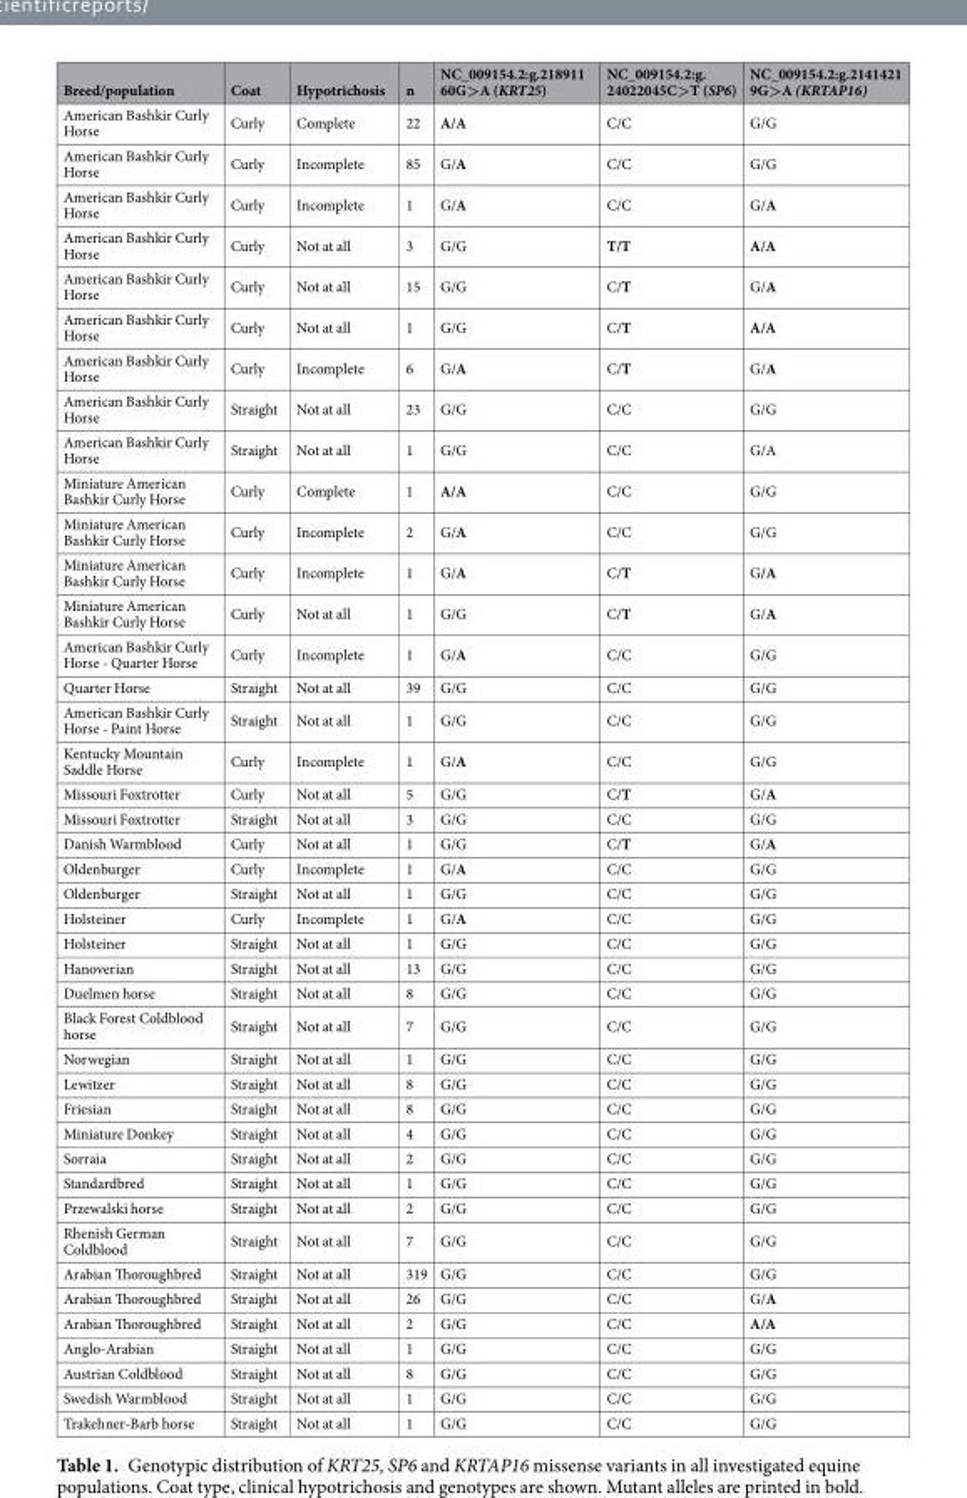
<table><thead><tr><td>Breed/population</td><td>Coat</td><td>Hypotrichosis</td><td>n</td><td>NC_009154.2:g.218911 60G&gt;A (KRT25)</td><td>NC_009154.2:g. 24022045C&gt;T (SP6)</td><td>NC_009154.2:g.2141421 9G&gt;A (KRTAP16)</td></tr></thead><tbody><tr><td>American Bashkir Curly Horse</td><td>Curly</td><td>Complete</td><td>22</td><td>A/A</td><td>C/C</td><td>G/G</td></tr><tr><td>American Bashkir Curly Horse</td><td>Curly</td><td>Incomplete</td><td>85</td><td>G/A</td><td>C/C</td><td>G/G</td></tr><tr><td>American Bashkir Curly Horse</td><td>Curly</td><td>Incomplete</td><td>1</td><td>G/A</td><td>C/C</td><td>G/A</td></tr><tr><td>American Bashkir Curly Horse</td><td>Curly</td><td>Not at all</td><td>3</td><td>G/G</td><td>T/T</td><td>A/A</td></tr><tr><td>American Bashkir Curly Horse</td><td>Curly</td><td>Not at all</td><td>15</td><td>G/G</td><td>C/T</td><td>G/A</td></tr><tr><td>American Bashkir Curly Horse</td><td>Curly</td><td>Not at all</td><td>1</td><td>G/G</td><td>C/T</td><td>A/A</td></tr><tr><td>American Bashkir Curly Horse</td><td>Curly</td><td>Incomplete</td><td>6</td><td>G/A</td><td>C/T</td><td>G/A</td></tr><tr><td>American Bashkir Curly Horse</td><td>Straight</td><td>Not at all</td><td>23</td><td>G/G</td><td>C/C</td><td>G/G</td></tr><tr><td>American Bashkir Curly Horse</td><td>Straight</td><td>Not at all</td><td>1</td><td>G/G</td><td>C/C</td><td>G/A</td></tr><tr><td>Miniature American Bashkir Curly Horse</td><td>Curly</td><td>Complete</td><td>1</td><td>A/A</td><td>C/C</td><td>G/G</td></tr><tr><td>Miniature American Bashkir Curly Horse</td><td>Curly</td><td>Incomplete</td><td>2</td><td>G/A</td><td>C/C</td><td>G/G</td></tr><tr><td>Miniature American Bashkir Curly Horse</td><td>Curly</td><td>Incomplete</td><td>1</td><td>G/A</td><td>C/T</td><td>G/A</td></tr><tr><td>Miniature American Bashkir Curly Horse</td><td>Curly</td><td>Not at all</td><td>1</td><td>G/G</td><td>C/T</td><td>G/A</td></tr><tr><td>American Bashkir Curly Horse - Quarter Horse</td><td>Curly</td><td>Incomplete</td><td>1</td><td>G/A</td><td>C/C</td><td>G/G</td></tr><tr><td>Quarter Horse</td><td>Straight</td><td>Not at all</td><td>39</td><td>G/G</td><td>C/C</td><td>G/G</td></tr><tr><td>American Bashkir Curly Horse - Paint Horse</td><td>Straight</td><td>Not at all</td><td>1</td><td>G/G</td><td>C/C</td><td>G/G</td></tr><tr><td>Kentucky Mountain Saddle Horse</td><td>Curly</td><td>Incomplete</td><td>1</td><td>G/A</td><td>C/C</td><td>G/G</td></tr><tr><td>Missouri Foxtrotter</td><td>Curly</td><td>Not at all</td><td>5</td><td>G/G</td><td>C/T</td><td>G/A</td></tr><tr><td>Missouri Foxtrotter</td><td>Straight</td><td>Not at all</td><td>3</td><td>G/G</td><td>C/C</td><td>G/G</td></tr><tr><td>Danish Warmblood</td><td>Curly</td><td>Not at all</td><td>1</td><td>G/G</td><td>C/T</td><td>G/A</td></tr><tr><td>Oldenburger</td><td>Curly</td><td>Incomplete</td><td>1</td><td>G/A</td><td>C/C</td><td>G/G</td></tr><tr><td>Oldenburger</td><td>Straight</td><td>Not at all</td><td>1</td><td>G/G</td><td>C/C</td><td>G/G</td></tr><tr><td>Holsteiner</td><td>Curly</td><td>Incomplete</td><td>1</td><td>G/A</td><td>C/C</td><td>G/G</td></tr><tr><td>Holsteiner</td><td>Straight</td><td>Not at all</td><td>1</td><td>G/G</td><td>C/C</td><td>G/G</td></tr><tr><td>Hanoverian</td><td>Straight</td><td>Not at all</td><td>13</td><td>G/G</td><td>C/C</td><td>G/G</td></tr><tr><td>Duelmen horse</td><td>Straight</td><td>Not at all</td><td>8</td><td>G/G</td><td>C/C</td><td>G/G</td></tr><tr><td>Black Forest Coldblood horse</td><td>Straight</td><td>Not at all</td><td>7</td><td>G/G</td><td>C/C</td><td>G/G</td></tr><tr><td>Norwegian</td><td>Straight</td><td>Not at all</td><td>1</td><td>G/G</td><td>C/C</td><td>G/G</td></tr><tr><td>Lewitzer</td><td>Straight</td><td>Not at all</td><td>8</td><td>G/G</td><td>C/C</td><td>G/G</td></tr><tr><td>Friesian</td><td>Straight</td><td>Not at all</td><td>8</td><td>G/G</td><td>C/C</td><td>G/G</td></tr><tr><td>Miniature Donkey</td><td>Straight</td><td>Not at all</td><td>4</td><td>G/G</td><td>C/C</td><td>G/G</td></tr><tr><td>Sorraia</td><td>Straight</td><td>Not at all</td><td>2</td><td>G/G</td><td>C/C</td><td>G/G</td></tr><tr><td>Standardbred</td><td>Straight</td><td>Not at all</td><td>1</td><td>G/G</td><td>C/C</td><td>G/G</td></tr><tr><td>Przewalski horse</td><td>Straight</td><td>Not at all</td><td>2</td><td>G/G</td><td>C/C</td><td>G/G</td></tr><tr><td>Rhenish German Coldblood</td><td>Straight</td><td>Not at all</td><td>7</td><td>G/G</td><td>C/C</td><td>G/G</td></tr><tr><td>Arabian Thoroughbred</td><td>Straight</td><td>Not at all</td><td>319</td><td>G/G</td><td>C/C</td><td>G/G</td></tr><tr><td>Arabian Thoroughbred</td><td>Straight</td><td>Not at all</td><td>26</td><td>G/G</td><td>C/C</td><td>G/A</td></tr><tr><td>Arabian Thoroughbred</td><td>Straight</td><td>Not at all</td><td>2</td><td>G/G</td><td>C/C</td><td>A/A</td></tr><tr><td>Anglo-Arabian</td><td>Straight</td><td>Not at all</td><td>1</td><td>G/G</td><td>C/C</td><td>G/G</td></tr><tr><td>Austrian Coldblood</td><td>Straight</td><td>Not at all</td><td>8</td><td>G/G</td><td>C/C</td><td>G/G</td></tr><tr><td>Swedish Warmblood</td><td>Straight</td><td>Not at all</td><td>1</td><td>G/G</td><td>C/C</td><td>G/G</td></tr><tr><td>Trakehner-Barb horse</td><td>Straight</td><td>Not at all</td><td>1</td><td>G/G</td><td>C/C</td><td>G/G</td></tr></tbody></table>